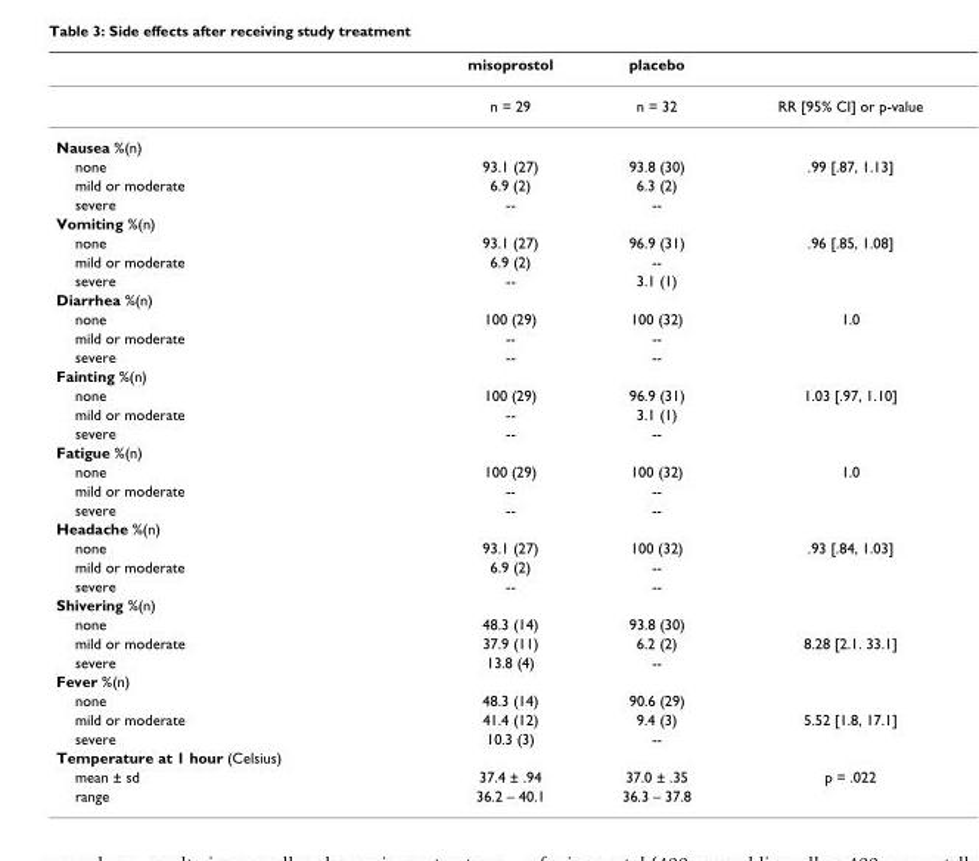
<table><thead><tr><td></td><td>misoprostol</td><td>placebo</td><td></td></tr></thead><tbody><tr><td></td><td>n = 29</td><td>n = 32</td><td>RR [95% CI] or p-value</td></tr><tr><td colspan="4">Nausea %(n)</td></tr><tr><td>none</td><td>93.1 (27)</td><td>93.8 (30)</td><td>.99 [.87, 1.13]</td></tr><tr><td>mild or moderate</td><td>6.9 (2)</td><td>6.3 (2)</td><td></td></tr><tr><td>severe</td><td>--</td><td>--</td><td></td></tr><tr><td colspan="4">Vomiting %(n)</td></tr><tr><td>none</td><td>93.1 (27)</td><td>96.9 (31)</td><td>.96 [.85, 1.08]</td></tr><tr><td>mild or moderate</td><td>6.9 (2)</td><td>--</td><td></td></tr><tr><td>severe</td><td>--</td><td>3.1 (1)</td><td></td></tr><tr><td colspan="4">Diarrhea %(n)</td></tr><tr><td>none</td><td>100 (29)</td><td>100 (32)</td><td>1.0</td></tr><tr><td>mild or moderate</td><td>--</td><td>--</td><td></td></tr><tr><td>severe</td><td>--</td><td>--</td><td></td></tr><tr><td colspan="4">Fainting %(n)</td></tr><tr><td>none</td><td>100 (29)</td><td>96.9 (31)</td><td>1.03 [.97, 1.10]</td></tr><tr><td>mild or moderate</td><td>--</td><td>3.1 (1)</td><td></td></tr><tr><td>severe</td><td>--</td><td>--</td><td></td></tr><tr><td colspan="4">Fatigue %(n)</td></tr><tr><td>none</td><td>100 (29)</td><td>100 (32)</td><td>1.0</td></tr><tr><td>mild or moderate</td><td>--</td><td>--</td><td></td></tr><tr><td>severe</td><td>--</td><td>--</td><td></td></tr><tr><td colspan="4">Headache %(n)</td></tr><tr><td>none</td><td>93.1 (27)</td><td>100 (32)</td><td>.93 [.84, 1.03]</td></tr><tr><td>mild or moderate</td><td>6.9 (2)</td><td>--</td><td></td></tr><tr><td>severe</td><td>--</td><td>--</td><td></td></tr><tr><td colspan="4">Shivering %(n)</td></tr><tr><td>none</td><td>48.3 (14)</td><td>93.8 (30)</td><td></td></tr><tr><td>mild or moderate</td><td>37.9 (11)</td><td>6.2 (2)</td><td>8.28 [2.1. 33.1]</td></tr><tr><td>severe</td><td>13.8 (4)</td><td>--</td><td></td></tr><tr><td colspan="4">Fever %(n)</td></tr><tr><td>none</td><td>48.3 (14)</td><td>90.6 (29)</td><td></td></tr><tr><td>mild or moderate</td><td>41.4 (12)</td><td>9.4 (3)</td><td>5.52 [1.8, 17.1]</td></tr><tr><td>severe</td><td>10.3 (3)</td><td>--</td><td></td></tr><tr><td colspan="4">Temperature at 1 hour (Celsius)</td></tr><tr><td>mean ± sd</td><td>37.4 ± .94</td><td>37.0 ± .35</td><td>p = .022</td></tr><tr><td>range</td><td>36.2 – 40.1</td><td>36.3 – 37.8</td><td></td></tr></tbody></table>